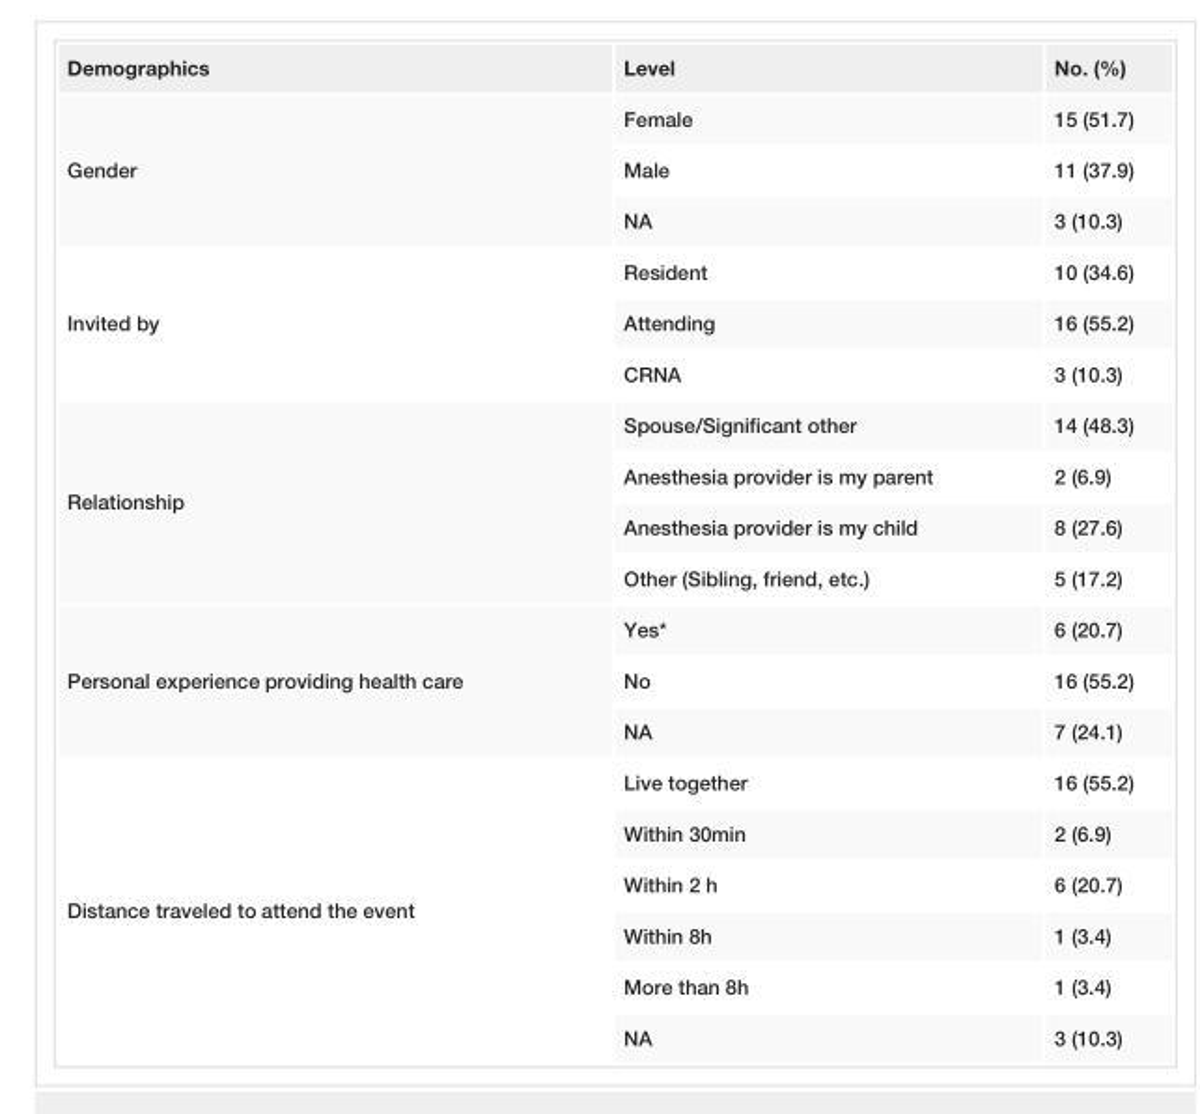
<table><tbody><tr><td>Demographics</td><td>Level</td><td>No. (%)</td></tr><tr><td rowspan="3">Gender</td><td>Female</td><td>15 (51.7)</td></tr><tr><td>Male</td><td>11 (37.9)</td></tr><tr><td>NA</td><td>3 (10.3)</td></tr><tr><td rowspan="3">Invited by</td><td>Resident</td><td>10 (34.6)</td></tr><tr><td>Attending</td><td>16 (55.2)</td></tr><tr><td>CRNA</td><td>3 (10.3)</td></tr><tr><td rowspan="4">Relationship</td><td>Spouse/Significant other</td><td>14 (48.3)</td></tr><tr><td>Anesthesia provider is my parent</td><td>2 (6.9)</td></tr><tr><td>Anesthesia provider is my child</td><td>8 (27.6)</td></tr><tr><td>Other (Sibling, friend, etc.)</td><td>5 (17.2)</td></tr><tr><td rowspan="3">Personal experience providing health care</td><td>Yes*</td><td>6 (20.7)</td></tr><tr><td>No</td><td>16 (55.2)</td></tr><tr><td>NA</td><td>7 (24.1)</td></tr><tr><td rowspan="6">Distance traveled to attend the event</td><td>Live together</td><td>16 (55.2)</td></tr><tr><td>Within 30min</td><td>2 (6.9)</td></tr><tr><td>Within 2 h</td><td>6 (20.7)</td></tr><tr><td>Within 8h</td><td>1 (3.4)</td></tr><tr><td>More than 8h</td><td>1 (3.4)</td></tr><tr><td>NA</td><td>3 (10.3)</td></tr></tbody></table>